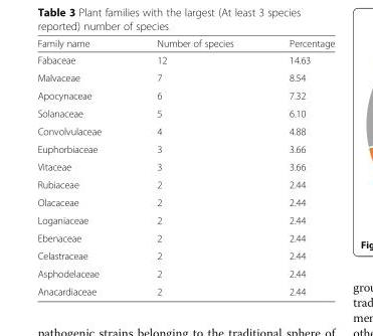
<table><thead><tr><td>Family name</td><td>Number of species</td><td>Percentage</td></tr></thead><tbody><tr><td>Fabaceae</td><td>12</td><td>14.63</td></tr><tr><td>Malvaceae</td><td>7</td><td>8.54</td></tr><tr><td>Apocynaceae</td><td>6</td><td>7.32</td></tr><tr><td>Solanaceae</td><td>5</td><td>6.10</td></tr><tr><td>Convolvulaceae</td><td>4</td><td>4.88</td></tr><tr><td>Euphorbiaceae</td><td>3</td><td>3.66</td></tr><tr><td>Vitaceae</td><td>3</td><td>3.66</td></tr><tr><td>Rubiaceae</td><td>2</td><td>2.44</td></tr><tr><td>Olacaceae</td><td>2</td><td>2.44</td></tr><tr><td>Loganiaceae</td><td>2</td><td>2.44</td></tr><tr><td>Ebenaceae</td><td>2</td><td>2.44</td></tr><tr><td>Celastraceae</td><td>2</td><td>2.44</td></tr><tr><td>Asphodelaceae</td><td>2</td><td>2.44</td></tr><tr><td>Anacardiaceae</td><td>2</td><td>2.44</td></tr></tbody></table>